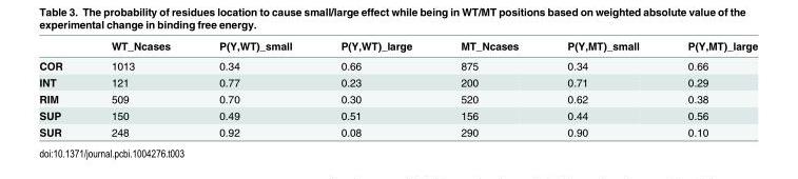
<table><thead><tr><td></td><td>WT_Ncases</td><td>P(Y,WT)_small</td><td>P(Y,WT)_large</td><td>MT_Ncases</td><td>P(Y,MT)_small</td><td>P(Y,MT)_large</td></tr></thead><tbody><tr><td>COR</td><td>1013</td><td>0.34</td><td>0.66</td><td>875</td><td>0.34</td><td>0.66</td></tr><tr><td>INT</td><td>121</td><td>0.77</td><td>0.23</td><td>200</td><td>0.71</td><td>0.29</td></tr><tr><td>RIM</td><td>509</td><td>0.70</td><td>0.30</td><td>520</td><td>0.62</td><td>0.38</td></tr><tr><td>SUP</td><td>150</td><td>0.49</td><td>0.51</td><td>156</td><td>0.44</td><td>0.56</td></tr><tr><td>SUR</td><td>248</td><td>0.92</td><td>0.08</td><td>290</td><td>0.90</td><td>0.10</td></tr></tbody></table>